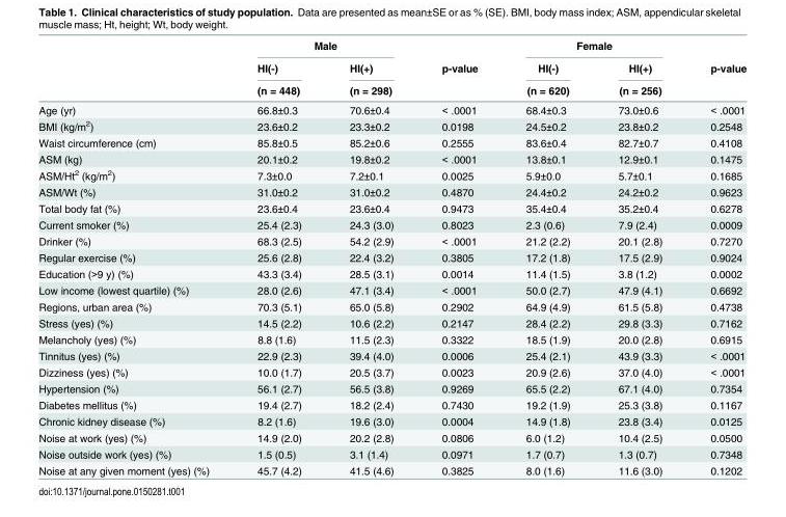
<table><thead><tr><td rowspan="3"></td><td colspan="2">Male</td><td rowspan="3">p-value</td><td colspan="2">Female</td><td rowspan="3">p-value</td></tr><tr><td rowspan="2">HI(-) (n = 448)</td><td rowspan="2">HI(+) (n = 298)</td><td rowspan="2">HI(-) (n = 620)</td><td rowspan="2">HI(+) (n = 256)</td></tr><tr></tr></thead><tbody><tr><td>Age (yr)</td><td>66.8±0.3</td><td>70.6±0.4</td><td>&lt; .0001</td><td>68.4±0.3</td><td>73.0±0.6</td><td>&lt; .0001</td></tr><tr><td>BMI (kg/m<sup>2</sup>)</td><td>23.6±0.2</td><td>23.3±0.2</td><td>0.0198</td><td>24.5±0.2</td><td>23.8±0.2</td><td>0.2548</td></tr><tr><td>Waist circumference (cm)</td><td>85.8±0.5</td><td>85.2±0.6</td><td>0.2555</td><td>83.6±0.4</td><td>82.7±0.7</td><td>0.4108</td></tr><tr><td>ASM (kg)</td><td>20.1±0.2</td><td>19.8±0.2</td><td>&lt; .0001</td><td>13.8±0.1</td><td>12.9±0.1</td><td>0.1475</td></tr><tr><td>ASM/Ht<sup>2</sup> (kg/m<sup>2</sup>)</td><td>7.3±0.0</td><td>7.2±0.1</td><td>0.0025</td><td>5.9±0.0</td><td>5.7±0.1</td><td>0.1685</td></tr><tr><td>ASM/Wt (%)</td><td>31.0±0.2</td><td>31.0±0.2</td><td>0.4870</td><td>24.4±0.2</td><td>24.2±0.2</td><td>0.9623</td></tr><tr><td>Total body fat (%)</td><td>23.6±0.4</td><td>23.6±0.4</td><td>0.9473</td><td>35.4±0.4</td><td>35.2±0.4</td><td>0.6278</td></tr><tr><td>Current smoker (%)</td><td>25.4 (2.3)</td><td>24.3 (3.0)</td><td>0.8023</td><td>2.3 (0.6)</td><td>7.9 (2.4)</td><td>0.0009</td></tr><tr><td>Drinker (%)</td><td>68.3 (2.5)</td><td>54.2 (2.9)</td><td>&lt; .0001</td><td>21.2 (2.2)</td><td>20.1 (2.8)</td><td>0.7270</td></tr><tr><td>Regular exercise (%)</td><td>25.6 (2.8)</td><td>22.4 (3.2)</td><td>0.3805</td><td>17.2 (1.8)</td><td>17.5 (2.9)</td><td>0.9024</td></tr><tr><td>Education (&gt;9 y) (%)</td><td>43.3 (3.4)</td><td>28.5 (3.1)</td><td>0.0014</td><td>11.4 (1.5)</td><td>3.8 (1.2)</td><td>0.0002</td></tr><tr><td>Low income (lowest quartile) (%)</td><td>28.0 (2.6)</td><td>47.1 (3.4)</td><td>&lt; .0001</td><td>50.0 (2.7)</td><td>47.9 (4.1)</td><td>0.6692</td></tr><tr><td>Regions, urban area (%)</td><td>70.3 (5.1)</td><td>65.0 (5.8)</td><td>0.2902</td><td>64.9 (4.9)</td><td>61.5 (5.8)</td><td>0.4738</td></tr><tr><td>Stress (yes) (%)</td><td>14.5 (2.2)</td><td>10.6 (2.2)</td><td>0.2147</td><td>28.4 (2.2)</td><td>29.8 (3.3)</td><td>0.7162</td></tr><tr><td>Melancholy (yes) (%)</td><td>8.8 (1.6)</td><td>11.5 (2.3)</td><td>0.3322</td><td>18.5 (1.9)</td><td>20.0 (2.8)</td><td>0.6915</td></tr><tr><td>Tinnitus (yes) (%)</td><td>22.9 (2.3)</td><td>39.4 (4.0)</td><td>0.0006</td><td>25.4 (2.1)</td><td>43.9 (3.3)</td><td>&lt; .0001</td></tr><tr><td>Dizziness (yes) (%)</td><td>10.0 (1.7)</td><td>20.5 (3.7)</td><td>0.0023</td><td>20.9 (2.6)</td><td>37.0 (4.0)</td><td>&lt; .0001</td></tr><tr><td>Hypertension (%)</td><td>56.1 (2.7)</td><td>56.5 (3.8)</td><td>0.9269</td><td>65.5 (2.2)</td><td>67.1 (4.0)</td><td>0.7354</td></tr><tr><td>Diabetes mellitus (%)</td><td>19.4 (2.7)</td><td>18.2 (2.4)</td><td>0.7430</td><td>19.2 (1.9)</td><td>25.3 (3.8)</td><td>0.1167</td></tr><tr><td>Chronic kidney disease (%)</td><td>8.2 (1.6)</td><td>19.6 (3.0)</td><td>0.0004</td><td>14.9 (1.8)</td><td>23.8 (3.4)</td><td>0.0125</td></tr><tr><td>Noise at work (yes) (%)</td><td>14.9 (2.0)</td><td>20.2 (2.8)</td><td>0.0806</td><td>6.0 (1.2)</td><td>10.4 (2.5)</td><td>0.0500</td></tr><tr><td>Noise outside work (yes) (%)</td><td>1.5 (0.5)</td><td>3.1 (1.4)</td><td>0.0971</td><td>1.7 (0.7)</td><td>1.3 (0.7)</td><td>0.7348</td></tr><tr><td>Noise at any given moment (yes) (%)</td><td>45.7 (4.2)</td><td>41.5 (4.6)</td><td>0.3825</td><td>8.0 (1.6)</td><td>11.6 (3.0)</td><td>0.1202</td></tr></tbody></table>